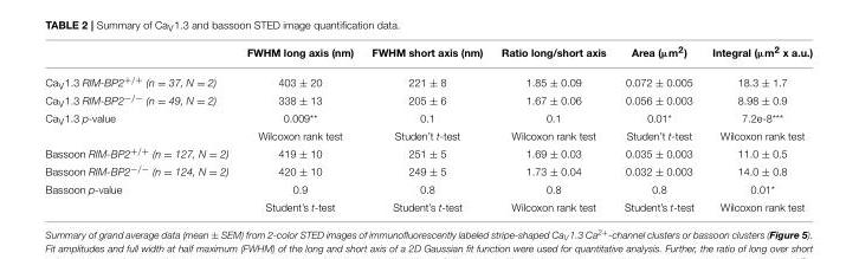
<table><thead><tr><td></td><td>FWHM long axis (nm)</td><td>FWHM short axis (nm)</td><td>Ratio long/short axis</td><td>Area (µm<sup>2</sup>)</td><td>Integral (µm<sup>2</sup> x a.u.)</td></tr></thead><tbody><tr><td>Ca<sub>V</sub>1.3 RIM-BP2<sup>+/+</sup> (n = 37, N = 2)</td><td>403 ± 20</td><td>221 ± 8</td><td>1.85 ± 0.09</td><td>0.072 ± 0.005</td><td>18.3 ± 1.7</td></tr><tr><td>Ca<sub>V</sub>1.3 RIM-BP2<sup>−/−</sup> (n = 49, N = 2)</td><td>338 ± 13</td><td>205 ± 6</td><td>1.67 ± 0.06</td><td>0.056 ± 0.003</td><td>8.98 ± 0.9</td></tr><tr><td rowspan="2">Ca<sub>V</sub>1.3 p-value</td><td>0.009**</td><td>0.1</td><td>0.1</td><td>0.01*</td><td>7.2e-8***</td></tr><tr><td>Wilcoxon rank test</td><td>Studen’t t-test</td><td>Wilcoxon rank test</td><td>Studen’t t-test</td><td>Wilcoxon rank test</td></tr><tr><td>Bassoon RIM-BP2<sup>+/+</sup> (n = 127, N = 2)</td><td>419 ± 10</td><td>251 ± 5</td><td>1.69 ± 0.03</td><td>0.035 ± 0.003</td><td>11.0 ± 0.5</td></tr><tr><td>Bassoon RIM-BP2<sup>−/−</sup> (n = 124, N = 2)</td><td>420 ± 10</td><td>249 ± 5</td><td>1.73 ± 0.04</td><td>0.032 ± 0.003</td><td>14.0 ± 0.8</td></tr><tr><td rowspan="2">Bassoon p-value</td><td>0.9</td><td>0.8</td><td>0.8</td><td>0.8</td><td>0.01*</td></tr><tr><td>Student’s t-test</td><td>Student’s t-test</td><td>Wilcoxon rank test</td><td>Student’s t-test</td><td>Wilcoxon rank test</td></tr></tbody></table>